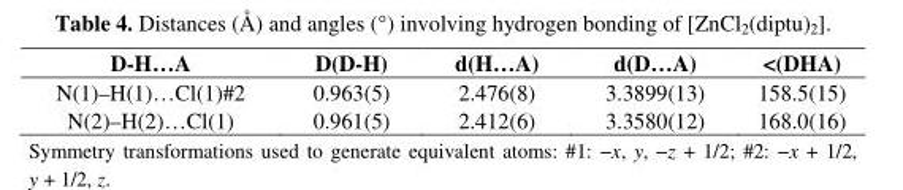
<table><thead><tr><td>D-H…A</td><td>D(D-H)</td><td>d(H…A)</td><td>d(D…A)</td><td>&lt;(DHA)</td></tr></thead><tbody><tr><td>N(1)–H(1)…Cl(1)#2</td><td>0.963(5)</td><td>2.476(8)</td><td>3.3899(13)</td><td>158.5(15)</td></tr><tr><td>N(2)–H(2)…Cl(1)</td><td>0.961(5)</td><td>2.412(6)</td><td>3.3580(12)</td><td>168.0(16)</td></tr></tbody></table>